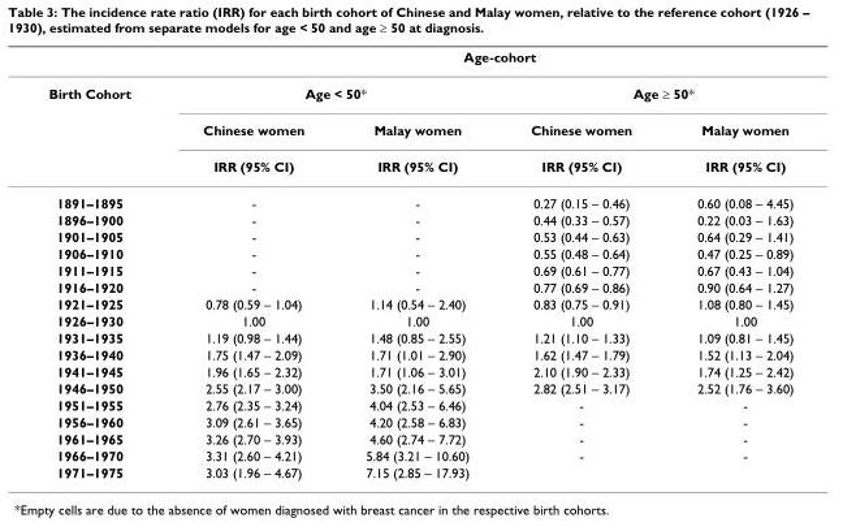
<table><thead><tr><td rowspan="3">Birth Cohort</td><td colspan="4">Age-cohort</td></tr><tr><td colspan="2">Age &lt; 50*</td><td colspan="2">Age ≥ 50*</td></tr><tr><td>Chinese women</td><td>Malay women</td><td>Chinese women</td><td>Malay women</td></tr></thead><tbody><tr><td></td><td>IRR (95% CI)</td><td>IRR (95% CI)</td><td>IRR (95% CI)</td><td>IRR (95% CI)</td></tr><tr><td>1891–1895</td><td>-</td><td>-</td><td>0.27 (0.15 – 0.46)</td><td>0.60 (0.08 – 4.45)</td></tr><tr><td>1896–1900</td><td>-</td><td>-</td><td>0.44 (0.33 – 0.57)</td><td>0.22 (0.03 – 1.63)</td></tr><tr><td>1901–1905</td><td>-</td><td>-</td><td>0.53 (0.44 – 0.63)</td><td>0.64 (0.29 – 1.41)</td></tr><tr><td>1906–1910</td><td>-</td><td>-</td><td>0.55 (0.48 – 0.64)</td><td>0.47 (0.25 – 0.89)</td></tr><tr><td>1911–1915</td><td>-</td><td>-</td><td>0.69 (0.61 – 0.77)</td><td>0.67 (0.43 – 1.04)</td></tr><tr><td>1916–1920</td><td>-</td><td>-</td><td>0.77 (0.69 – 0.86)</td><td>0.90 (0.64 – 1.27)</td></tr><tr><td>1921–1925</td><td>0.78 (0.59 – 1.04)</td><td>1.14 (0.54 – 2.40)</td><td>0.83 (0.75 – 0.91)</td><td>1.08 (0.80 – 1.45)</td></tr><tr><td>1926–1930</td><td>1.00</td><td>1.00</td><td>1.00</td><td>1.00</td></tr><tr><td>1931–1935</td><td>1.19 (0.98 – 1.44)</td><td>1.48 (0.85 – 2.55)</td><td>1.21 (1.10 – 1.33)</td><td>1.09 (0.81 – 1.45)</td></tr><tr><td>1936–1940</td><td>1.75 (1.47 – 2.09)</td><td>1.71 (1.01 – 2.90)</td><td>1.62 (1.47 – 1.79)</td><td>1.52 (1.13 – 2.04)</td></tr><tr><td>1941–1945</td><td>1.96 (1.65 – 2.32)</td><td>1.71 (1.06 – 3.01)</td><td>2.10 (1.90 – 2.33)</td><td>1.74 (1.25 – 2.42)</td></tr><tr><td>1946–1950</td><td>2.55 (2.17 – 3.00)</td><td>3.50 (2.16 – 5.65)</td><td>2.82 (2.51 – 3.17)</td><td>2.52 (1.76 – 3.60)</td></tr><tr><td>1951–1955</td><td>2.76 (2.35 – 3.24)</td><td>4.04 (2.53 – 6.46)</td><td>-</td><td>-</td></tr><tr><td>1956–1960</td><td>3.09 (2.61 – 3.65)</td><td>4.20 (2.58 – 6.83)</td><td>-</td><td>-</td></tr><tr><td>1961–1965</td><td>3.26 (2.70 – 3.93)</td><td>4.60 (2.74 – 7.72)</td><td>-</td><td>-</td></tr><tr><td>1966–1970</td><td>3.31 (2.60 – 4.21)</td><td>5.84 (3.21 – 10.60)</td><td>-</td><td>-</td></tr><tr><td>1971–1975</td><td>3.03 (1.96 – 4.67)</td><td>7.15 (2.85 – 17.93)</td><td></td><td></td></tr></tbody></table>